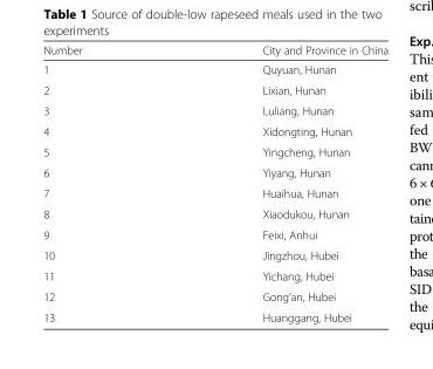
<table><thead><tr><td>Number</td><td>City and Province in China</td></tr></thead><tbody><tr><td>1</td><td>Quyuan, Hunan</td></tr><tr><td>2</td><td>Lixian, Hunan</td></tr><tr><td>3</td><td>Luliang, Hunan</td></tr><tr><td>4</td><td>Xidongting, Hunan</td></tr><tr><td>5</td><td>Yingcheng, Hunan</td></tr><tr><td>6</td><td>Yiyang, Hunan</td></tr><tr><td>7</td><td>Huaihua, Hunan</td></tr><tr><td>8</td><td>Xiaodukou, Hunan</td></tr><tr><td>9</td><td>Feixi, Anhui</td></tr><tr><td>10</td><td>Jingzhou, Hubei</td></tr><tr><td>11</td><td>Yichang, Hubei</td></tr><tr><td>12</td><td>Gong’an, Hubei</td></tr><tr><td>13</td><td>Huanggang, Hubei</td></tr></tbody></table>